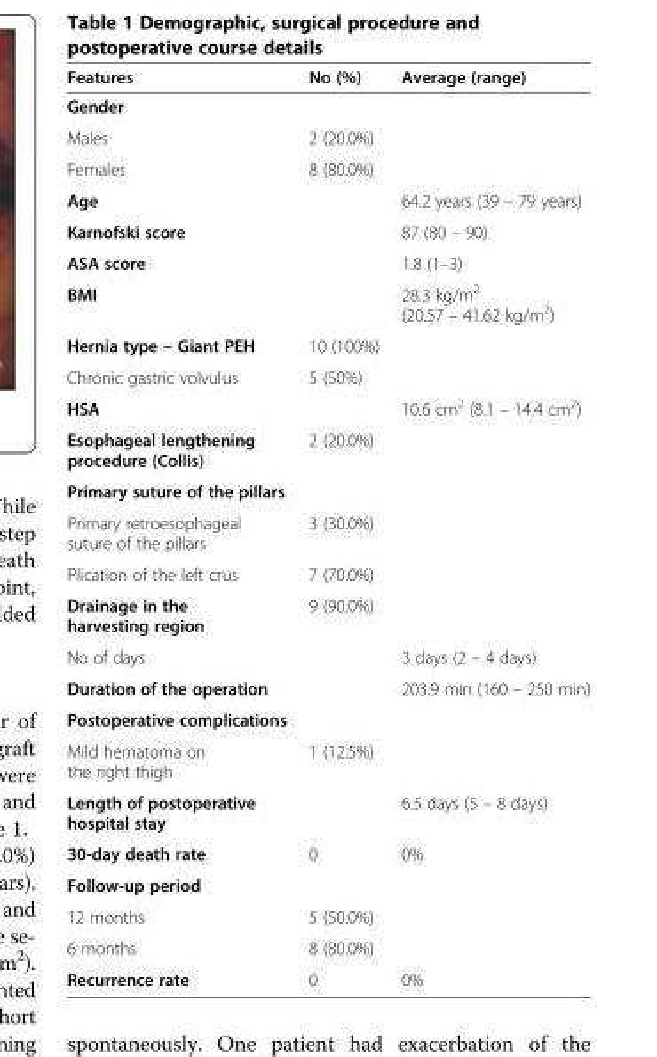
<table><thead><tr><td>Features</td><td>No (%)</td><td>Average (range)</td></tr></thead><tbody><tr><td colspan="3">Gender</td></tr><tr><td>Males</td><td>2 (20.0%)</td><td></td></tr><tr><td>Females</td><td>8 (80.0%)</td><td></td></tr><tr><td>Age</td><td></td><td>64.2 years (39 – 79 years)</td></tr><tr><td>Karnofski score</td><td></td><td>87 (80 – 90)</td></tr><tr><td>ASA score</td><td></td><td>1.8 (1–3)</td></tr><tr><td>BMI</td><td></td><td>28.3 kg/m<sup>2</sup> (20.57 – 41.62 kg/m<sup>2</sup>)</td></tr><tr><td>Hernia type – Giant PEH</td><td>10 (100%)</td><td></td></tr><tr><td>Chronic gastric volvulus</td><td>5 (50%)</td><td></td></tr><tr><td>HSA</td><td></td><td>10.6 cm<sup>2</sup> (8.1 – 14.4 cm<sup>2</sup>)</td></tr><tr><td>Esophageal lengthening procedure (Collis)</td><td>2 (20.0%)</td><td></td></tr><tr><td colspan="3">Primary suture of the pillars</td></tr><tr><td>Primary retroesophageal suture of the pillars</td><td>3 (30.0%)</td><td></td></tr><tr><td>Plication of the left crus</td><td>7 (70.0%)</td><td></td></tr><tr><td>Drainage in the harvesting region</td><td>9 (90.0%)</td><td></td></tr><tr><td>No of days</td><td></td><td>3 days (2 – 4 days)</td></tr><tr><td>Duration of the operation</td><td></td><td>203.9 min (160 – 250 min)</td></tr><tr><td colspan="3">Postoperative complications</td></tr><tr><td>Mild hematoma on the right thigh</td><td>1 (12.5%)</td><td></td></tr><tr><td>Length of postoperative hospital stay</td><td></td><td>6.5 days (5 – 8 days)</td></tr><tr><td>30-day death rate</td><td>0</td><td>0%</td></tr><tr><td colspan="3">Follow-up period</td></tr><tr><td>12 months</td><td>5 (50.0%)</td><td></td></tr><tr><td>6 months</td><td>8 (80.0%)</td><td></td></tr><tr><td>Recurrence rate</td><td>0</td><td>0%</td></tr></tbody></table>